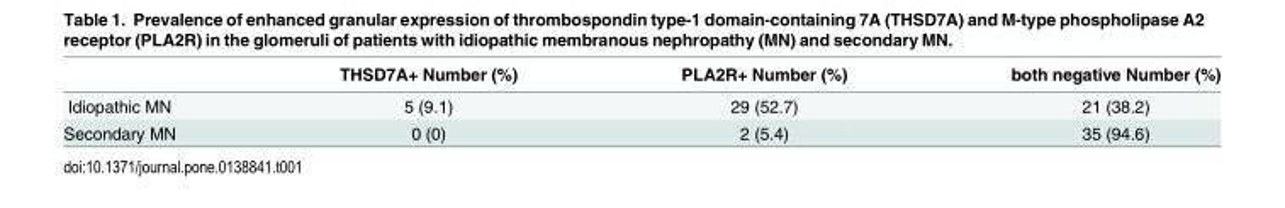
<table><thead><tr><td></td><td>THSD7A+ Number (%)</td><td>PLA2R+ Number (%)</td><td>both negative Number (%)</td></tr></thead><tbody><tr><td>Idiopathic MN</td><td>5 (9.1)</td><td>29 (52.7)</td><td>21 (38.2)</td></tr><tr><td>Secondary MN</td><td>0 (0)</td><td>2 (5.4)</td><td>35 (94.6)</td></tr></tbody></table>